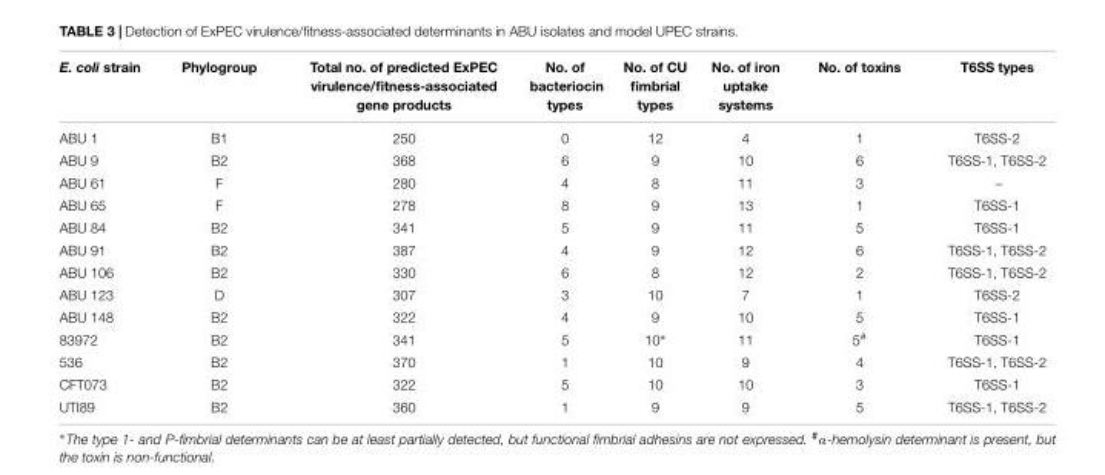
<table><thead><tr><td>E. coli strain</td><td>Phylogroup</td><td>Total no. of predicted ExPEC virulence/fitness-associated gene products</td><td>No. of bacteriocin types</td><td>No. of CU fimbrial types</td><td>No. of iron uptake systems</td><td>No. of toxins</td><td>T6SS types</td></tr></thead><tbody><tr><td>ABU 1</td><td>B1</td><td>250</td><td>0</td><td>12</td><td>4</td><td>1</td><td>T6SS-2</td></tr><tr><td>ABU 9</td><td>B2</td><td>368</td><td>6</td><td>9</td><td>10</td><td>6</td><td>T6SS-1, T6SS-2</td></tr><tr><td>ABU 61</td><td>F</td><td>280</td><td>4</td><td>8</td><td>11</td><td>3</td><td>–</td></tr><tr><td>ABU 65</td><td>F</td><td>278</td><td>8</td><td>9</td><td>13</td><td>1</td><td>T6SS-1</td></tr><tr><td>ABU 84</td><td>B2</td><td>341</td><td>5</td><td>9</td><td>11</td><td>5</td><td>T6SS-1</td></tr><tr><td>ABU 91</td><td>B2</td><td>387</td><td>4</td><td>9</td><td>12</td><td>6</td><td>T6SS-1, T6SS-2</td></tr><tr><td>ABU 106</td><td>B2</td><td>330</td><td>6</td><td>8</td><td>12</td><td>2</td><td>T6SS-1, T6SS-2</td></tr><tr><td>ABU 123</td><td>D</td><td>307</td><td>3</td><td>10</td><td>7</td><td>1</td><td>T6SS-2</td></tr><tr><td>ABU 148</td><td>B2</td><td>322</td><td>4</td><td>9</td><td>10</td><td>5</td><td>T6SS-1</td></tr><tr><td>83972</td><td>B2</td><td>341</td><td>5</td><td>10∗</td><td>11</td><td>5<sup>#</sup></td><td>T6SS-1</td></tr><tr><td>536</td><td>B2</td><td>370</td><td>1</td><td>10</td><td>9</td><td>4</td><td>T6SS-1, T6SS-2</td></tr><tr><td>CFT073</td><td>B2</td><td>322</td><td>5</td><td>10</td><td>10</td><td>3</td><td>T6SS-1</td></tr><tr><td>UTI89</td><td>B2</td><td>360</td><td>1</td><td>9</td><td>9</td><td>5</td><td>T6SS-1, T6SS-2</td></tr></tbody></table>